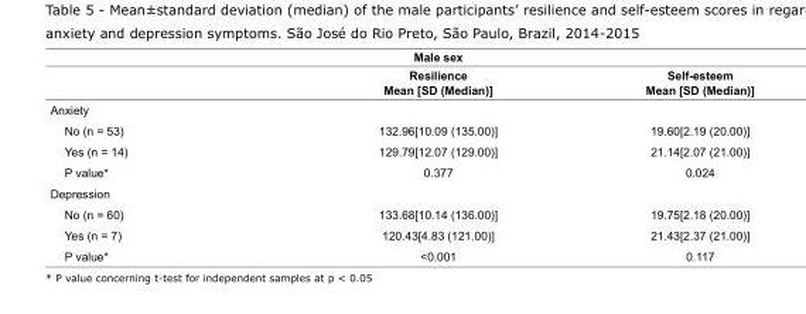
<table><thead><tr><td colspan="3">Male sex</td></tr><tr><td></td><td>Resilience Mean [SD (Median)]</td><td>Self-esteem Mean [SD (Median)]</td></tr></thead><tbody><tr><td colspan="3">Anxiety</td></tr><tr><td>No (n = 53)</td><td>132.96[10.09 (135.00)]</td><td>19.60[2.19 (20.00)]</td></tr><tr><td>Yes (n = 14)</td><td>129.79[12.07 (129.00)]</td><td>21.14[2.07 (21.00)]</td></tr><tr><td>P value*</td><td>0.377</td><td>0.024</td></tr><tr><td colspan="3">Depression</td></tr><tr><td>No (n = 60)</td><td>133.68[10.14 (136.00)]</td><td>19.75[2.18 (20.00)]</td></tr><tr><td>Yes (n = 7)</td><td>120.43[4.83 (121.00)]</td><td>21.43[2.37 (21.00)]</td></tr><tr><td>P value*</td><td>&lt;0.001</td><td>0.117</td></tr></tbody></table>